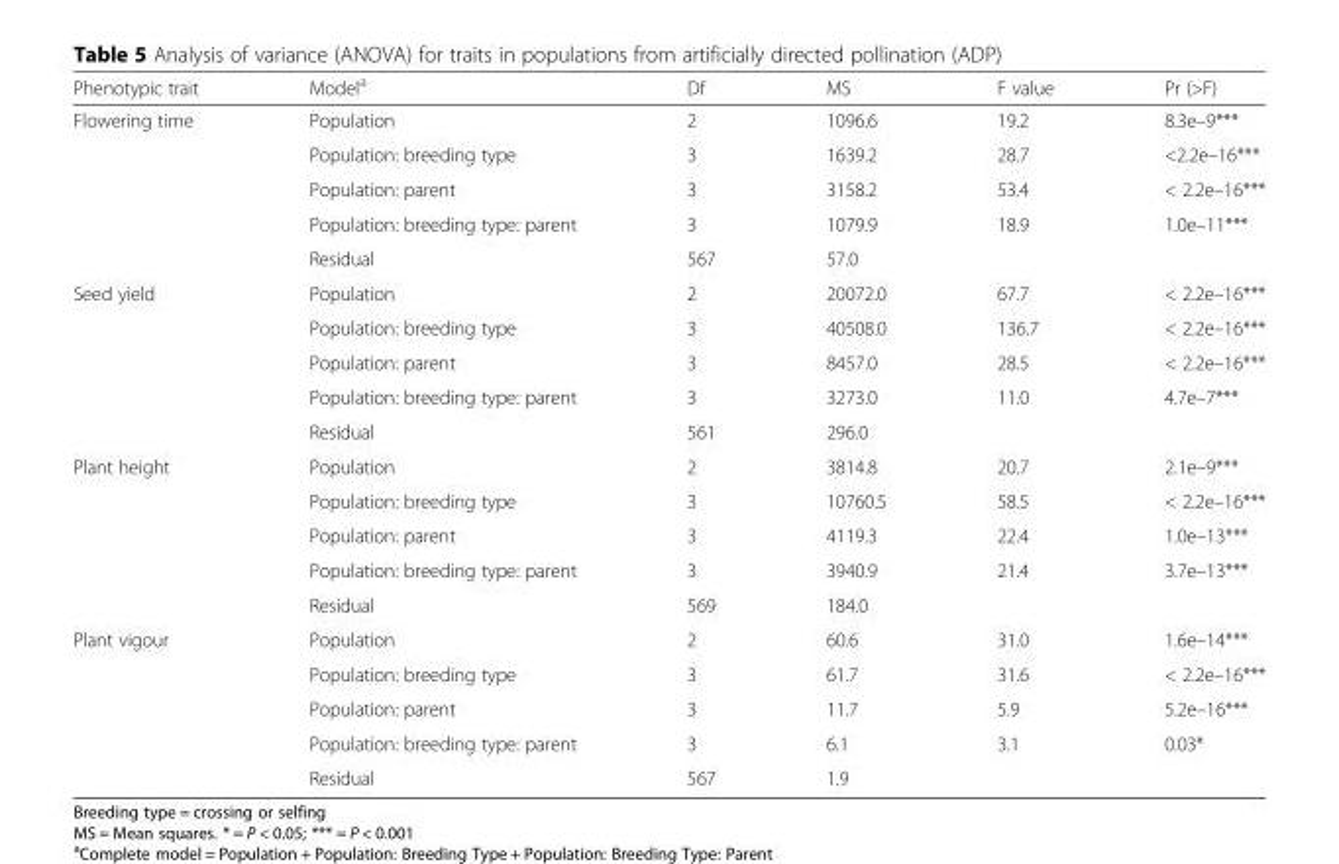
<table><thead><tr><td>Phenotypic trait</td><td>Model<sup>a</sup></td><td>Df</td><td>MS</td><td>F value</td><td>Pr (&gt;F)</td></tr></thead><tbody><tr><td rowspan="5">Flowering time</td><td>Population</td><td>2</td><td>1096.6</td><td>19.2</td><td>8.3e–9***</td></tr><tr><td>Population: breeding type</td><td>3</td><td>1639.2</td><td>28.7</td><td>&lt;2.2e–16***</td></tr><tr><td>Population: parent</td><td>3</td><td>3158.2</td><td>53.4</td><td>&lt; 2.2e–16***</td></tr><tr><td>Population: breeding type: parent</td><td>3</td><td>1079.9</td><td>18.9</td><td>1.0e–11***</td></tr><tr><td>Residual</td><td>567</td><td>57.0</td><td></td><td></td></tr><tr><td rowspan="5">Seed yield</td><td>Population</td><td>2</td><td>20072.0</td><td>67.7</td><td>&lt; 2.2e–16***</td></tr><tr><td>Population: breeding type</td><td>3</td><td>40508.0</td><td>136.7</td><td>&lt; 2.2e–16***</td></tr><tr><td>Population: parent</td><td>3</td><td>8457.0</td><td>28.5</td><td>&lt; 2.2e–16***</td></tr><tr><td>Population: breeding type: parent</td><td>3</td><td>3273.0</td><td>11.0</td><td>4.7e–7***</td></tr><tr><td>Residual</td><td>561</td><td>296.0</td><td></td><td></td></tr><tr><td rowspan="5">Plant height</td><td>Population</td><td>2</td><td>3814.8</td><td>20.7</td><td>2.1e–9***</td></tr><tr><td>Population: breeding type</td><td>3</td><td>10760.5</td><td>58.5</td><td>&lt; 2.2e–16***</td></tr><tr><td>Population: parent</td><td>3</td><td>4119.3</td><td>22.4</td><td>1.0e–13***</td></tr><tr><td>Population: breeding type: parent</td><td>3</td><td>3940.9</td><td>21.4</td><td>3.7e–13***</td></tr><tr><td>Residual</td><td>569</td><td>184.0</td><td></td><td></td></tr><tr><td rowspan="5">Plant vigour</td><td>Population</td><td>2</td><td>60.6</td><td>31.0</td><td>1.6e–14***</td></tr><tr><td>Population: breeding type</td><td>3</td><td>61.7</td><td>31.6</td><td>&lt; 2.2e–16***</td></tr><tr><td>Population: parent</td><td>3</td><td>11.7</td><td>5.9</td><td>5.2e–16***</td></tr><tr><td>Population: breeding type: parent</td><td>3</td><td>6.1</td><td>3.1</td><td>0.03*</td></tr><tr><td>Residual</td><td>567</td><td>1.9</td><td></td><td></td></tr></tbody></table>